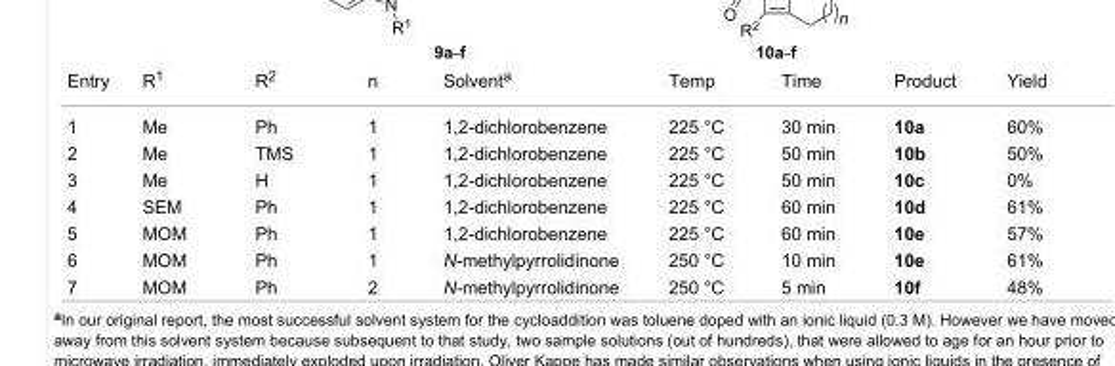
<table><tbody><tr><td>Entry</td><td>R<sup>1</sup></td><td>R<sup>2</sup></td><td>n</td><td>Solvent<sup>a</sup></td><td>Temp</td><td>Time</td><td>Product</td><td>Yield</td></tr><tr><td>1</td><td>Me</td><td>Ph</td><td>1</td><td>1,2-dichlorobenzene</td><td>225 °C</td><td>30 min</td><td>10a</td><td>60%</td></tr><tr><td>2</td><td>Me</td><td>TMS</td><td>1</td><td>1,2-dichlorobenzene</td><td>225 °C</td><td>50 min</td><td>10b</td><td>50%</td></tr><tr><td>3</td><td>Me</td><td>H</td><td>1</td><td>1,2-dichlorobenzene</td><td>225 °C</td><td>50 min</td><td>10c</td><td>0%</td></tr><tr><td>4</td><td>SEM</td><td>Ph</td><td>1</td><td>1,2-dichlorobenzene</td><td>225 °C</td><td>60 min</td><td>10d</td><td>61%</td></tr><tr><td>5</td><td>MOM</td><td>Ph</td><td>1</td><td>1,2-dichlorobenzene</td><td>225 °C</td><td>60 min</td><td>10e</td><td>57%</td></tr><tr><td>6</td><td>MOM</td><td>Ph</td><td>1</td><td>N-methylpyrrolidinone</td><td>250 °C</td><td>10 min</td><td>10e</td><td>61%</td></tr><tr><td>7</td><td>MOM</td><td>Ph</td><td>2</td><td>N-methylpyrrolidinone</td><td>250 °C</td><td>5 min</td><td>10f</td><td>48%</td></tr></tbody></table>